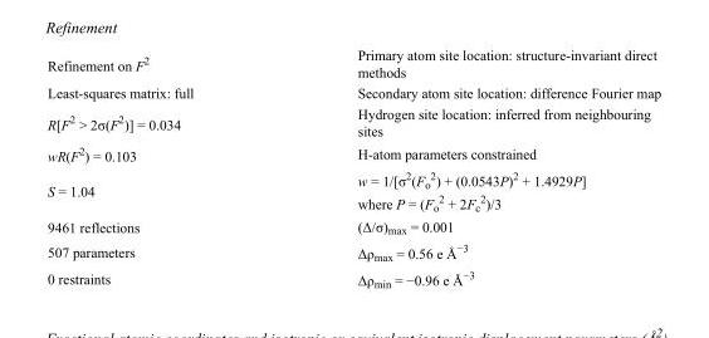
<table><tbody><tr><td>Refinement on F<sup>2</sup></td><td>Primary atom site location: structure-invariant direct methods</td></tr><tr><td>Least-squares matrix: full</td><td>Secondary atom site location: difference Fourier map</td></tr><tr><td>R[F<sup>2</sup> &gt; 2σ(F<sup>2</sup>)] = 0.034</td><td>Hydrogen site location: inferred from neighbouring sites</td></tr><tr><td>wR(F<sup>2</sup>) = 0.103</td><td>H-atom parameters constrained</td></tr><tr><td>S = 1.04</td><td>w = 1/[σ<sup>2</sup>(F<sub>o</sub> <sup>2</sup>) + (0.0543P)<sup>2</sup> + 1.4929P] where P = (F<sub>o</sub> <sup>2</sup> + 2F<sub>c</sub> <sup>2</sup>)/3</td></tr><tr><td>9461 reflections</td><td>(Δ/σ)<sub>max</sub> = 0.001</td></tr><tr><td>507 parameters</td><td>Δρ<sub>max</sub> = 0.56 e Å<sup>−3</sup></td></tr><tr><td>0 restraints</td><td>Δρ<sub>min</sub> = −0.96 e Å<sup>−3</sup></td></tr></tbody></table>